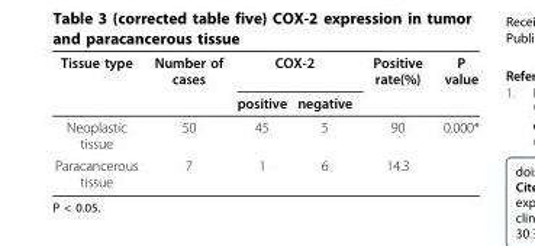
<table><thead><tr><td rowspan="2">Tissue type</td><td rowspan="2">Number of cases</td><td colspan="2">COX-2</td><td rowspan="2">Positive rate(%)</td><td rowspan="2">P value</td></tr><tr><td>positive</td><td>negative</td></tr></thead><tbody><tr><td>Neoplastic tissue</td><td>50</td><td>45</td><td>5</td><td>90</td><td>0.000*</td></tr><tr><td>Paracancerous tissue</td><td>7</td><td>1</td><td>6</td><td>14.3</td><td></td></tr></tbody></table>